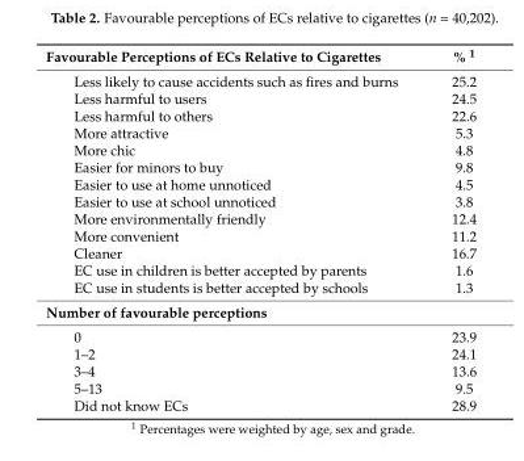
<table><thead><tr><td>Favourable Perceptions of ECs Relative to Cigarettes</td><td>% <sup>1</sup></td></tr></thead><tbody><tr><td>Less likely to cause accidents such as fires and burns</td><td>25.2</td></tr><tr><td>Less harmful to users</td><td>24.5</td></tr><tr><td>Less harmful to others</td><td>22.6</td></tr><tr><td>More attractive</td><td>5.3</td></tr><tr><td>More chic</td><td>4.8</td></tr><tr><td>Easier for minors to buy</td><td>9.8</td></tr><tr><td>Easier to use at home unnoticed</td><td>4.5</td></tr><tr><td>Easier to use at school unnoticed</td><td>3.8</td></tr><tr><td>More environmentally friendly</td><td>12.4</td></tr><tr><td>More convenient</td><td>11.2</td></tr><tr><td>Cleaner</td><td>16.7</td></tr><tr><td>EC use in children is better accepted by parents</td><td>1.6</td></tr><tr><td>EC use in students is better accepted by schools</td><td>1.3</td></tr><tr><td colspan="2">Number of favourable perceptions</td></tr><tr><td>0</td><td>23.9</td></tr><tr><td>1–2</td><td>24.1</td></tr><tr><td>3–4</td><td>13.6</td></tr><tr><td>5–13</td><td>9.5</td></tr><tr><td>Did not know ECs</td><td>28.9</td></tr></tbody></table>